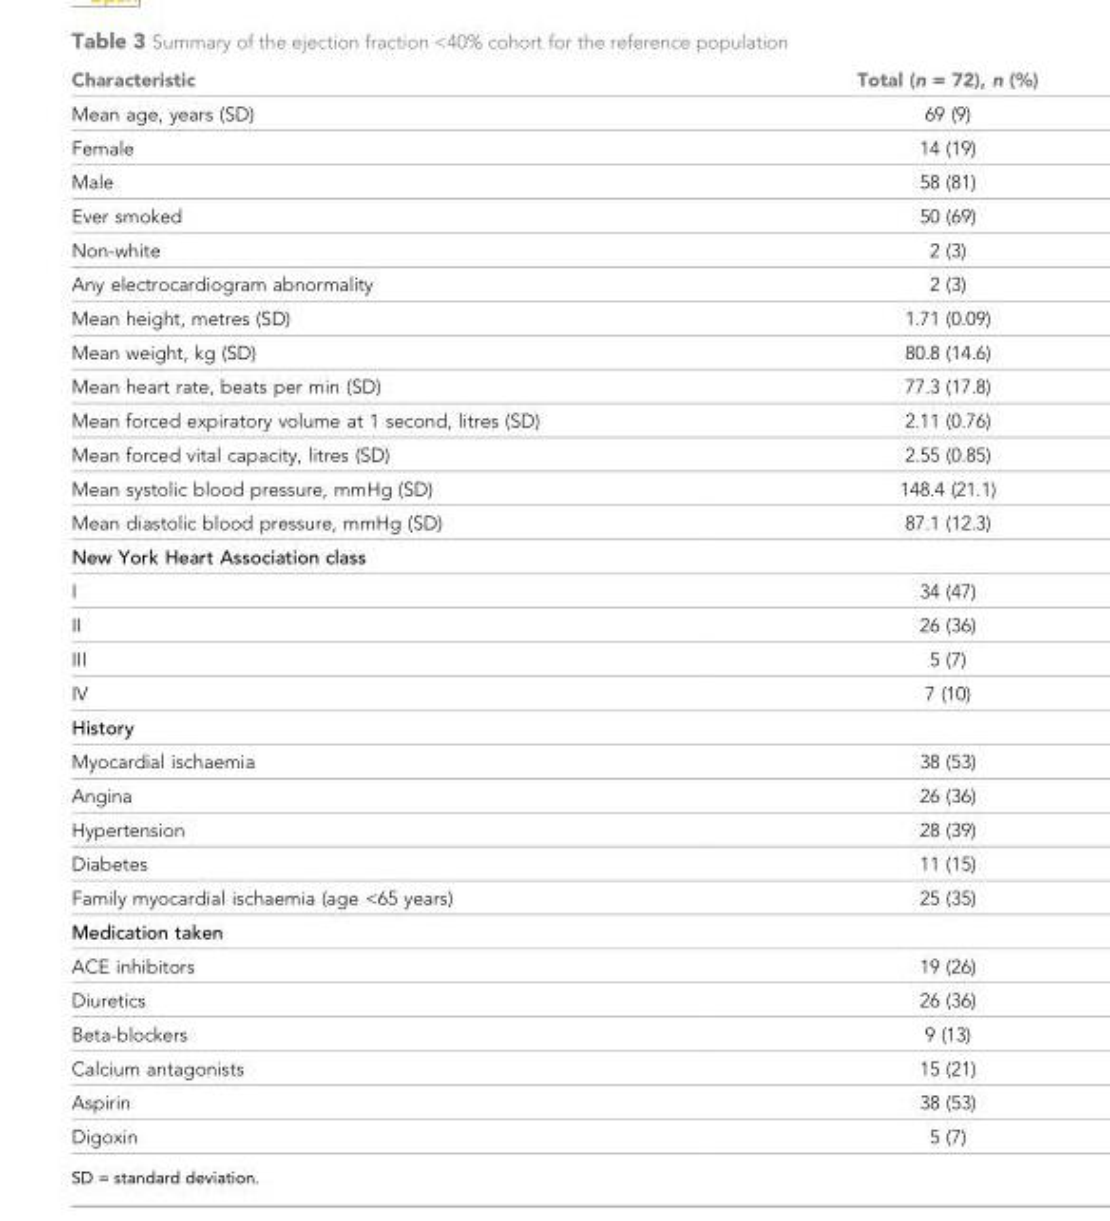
<table><thead><tr><td>Characteristic</td><td>Total (n = 72), n (%)</td></tr></thead><tbody><tr><td>Mean age, years (SD)</td><td>69 (9)</td></tr><tr><td>Female</td><td>14 (19)</td></tr><tr><td>Male</td><td>58 (81)</td></tr><tr><td>Ever smoked</td><td>50 (69)</td></tr><tr><td>Non-white</td><td>2 (3)</td></tr><tr><td>Any electrocardiogram abnormality</td><td>2 (3)</td></tr><tr><td>Mean height, metres (SD)</td><td>1.71 (0.09)</td></tr><tr><td>Mean weight, kg (SD)</td><td>80.8 (14.6)</td></tr><tr><td>Mean heart rate, beats per min (SD)</td><td>77.3 (17.8)</td></tr><tr><td>Mean forced expiratory volume at 1 second, litres (SD)</td><td>2.11 (0.76)</td></tr><tr><td>Mean forced vital capacity, litres (SD)</td><td>2.55 (0.85)</td></tr><tr><td>Mean systolic blood pressure, mmHg (SD)</td><td>148.4 (21.1)</td></tr><tr><td>Mean diastolic blood pressure, mmHg (SD)</td><td>87.1 (12.3)</td></tr><tr><td colspan="2">New York Heart Association class</td></tr><tr><td>I</td><td>34 (47)</td></tr><tr><td>II</td><td>26 (36)</td></tr><tr><td>III</td><td>5 (7)</td></tr><tr><td>IV</td><td>7 (10)</td></tr><tr><td colspan="2">History</td></tr><tr><td>Myocardial ischaemia</td><td>38 (53)</td></tr><tr><td>Angina</td><td>26 (36)</td></tr><tr><td>Hypertension</td><td>28 (39)</td></tr><tr><td>Diabetes</td><td>11 (15)</td></tr><tr><td>Family myocardial ischaemia (age &lt;65 years)</td><td>25 (35)</td></tr><tr><td colspan="2">Medication taken</td></tr><tr><td>ACE inhibitors</td><td>19 (26)</td></tr><tr><td>Diuretics</td><td>26 (36)</td></tr><tr><td>Beta-blockers</td><td>9 (13)</td></tr><tr><td>Calcium antagonists</td><td>15 (21)</td></tr><tr><td>Aspirin</td><td>38 (53)</td></tr><tr><td>Digoxin</td><td>5 (7)</td></tr></tbody></table>